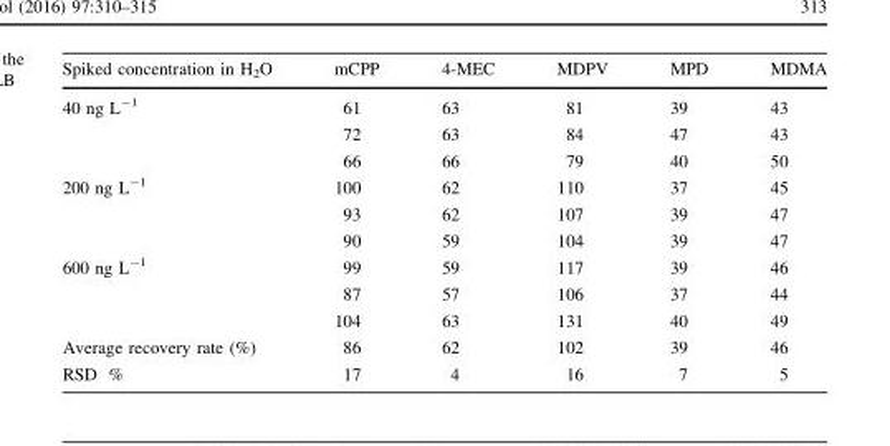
<table><thead><tr><td>Spiked concentration in H<sub>2</sub>O</td><td>mCPP</td><td>4-MEC</td><td>MDPV</td><td>MPD</td><td>MDMA</td></tr></thead><tbody><tr><td rowspan="3">40 ng L<sup>-1</sup></td><td>61</td><td>63</td><td>81</td><td>39</td><td>43</td></tr><tr><td>72</td><td>63</td><td>84</td><td>47</td><td>43</td></tr><tr><td>66</td><td>66</td><td>79</td><td>40</td><td>50</td></tr><tr><td rowspan="3">200 ng L<sup>-1</sup></td><td>100</td><td>62</td><td>110</td><td>37</td><td>45</td></tr><tr><td>93</td><td>62</td><td>107</td><td>39</td><td>47</td></tr><tr><td>90</td><td>59</td><td>104</td><td>39</td><td>47</td></tr><tr><td rowspan="3">600 ng L<sup>-1</sup></td><td>99</td><td>59</td><td>117</td><td>39</td><td>46</td></tr><tr><td>87</td><td>57</td><td>106</td><td>37</td><td>44</td></tr><tr><td>104</td><td>63</td><td>131</td><td>40</td><td>49</td></tr><tr><td>Average recovery rate (%)</td><td>86</td><td>62</td><td>102</td><td>39</td><td>46</td></tr><tr><td>RSD %</td><td>17</td><td>4</td><td>16</td><td>7</td><td>5</td></tr></tbody></table>